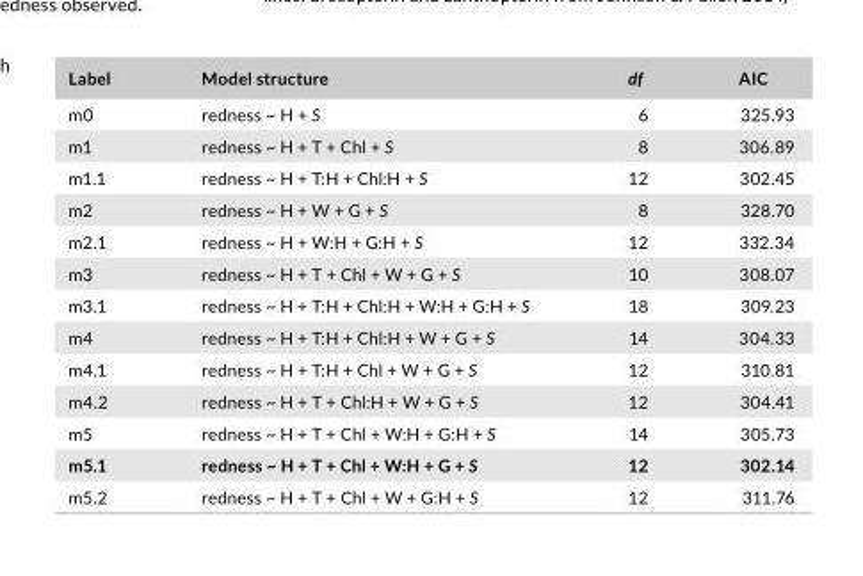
<table><thead><tr><td>Label</td><td>Model structure</td><td>df</td><td>AIC</td></tr></thead><tbody><tr><td>m0</td><td>redness ~ H + S</td><td>6</td><td>325.93</td></tr><tr><td>m1</td><td>redness ~ H + T + Chl + S</td><td>8</td><td>306.89</td></tr><tr><td>m1.1</td><td>redness ~ H + T:H + Chl:H + S</td><td>12</td><td>302.45</td></tr><tr><td>m2</td><td>redness ~ H + W + G + S</td><td>8</td><td>328.70</td></tr><tr><td>m2.1</td><td>redness ~ H + W:H + G:H + S</td><td>12</td><td>332.34</td></tr><tr><td>m3</td><td>redness ~ H + T + Chl + W + G + S</td><td>10</td><td>308.07</td></tr><tr><td>m3.1</td><td>redness ~ H + T:H + Chl:H + W:H + G:H + S</td><td>18</td><td>309.23</td></tr><tr><td>m4</td><td>redness ~ H + T:H + Chl:H + W + G + S</td><td>14</td><td>304.33</td></tr><tr><td>m4.1</td><td>redness ~ H + T:H + Chl + W + G + S</td><td>12</td><td>310.81</td></tr><tr><td>m4.2</td><td>redness ~ H + T + Chl:H + W + G + S</td><td>12</td><td>304.41</td></tr><tr><td>m5</td><td>redness ~ H + T + Chl + W:H + G:H + S</td><td>14</td><td>305.73</td></tr><tr><td>m5.1</td><td>redness ~ H + T + Chl + W:H + G + S</td><td>12</td><td>302.14</td></tr><tr><td>m5.2</td><td>redness ~ H + T + Chl + W + G:H + S</td><td>12</td><td>311.76</td></tr></tbody></table>